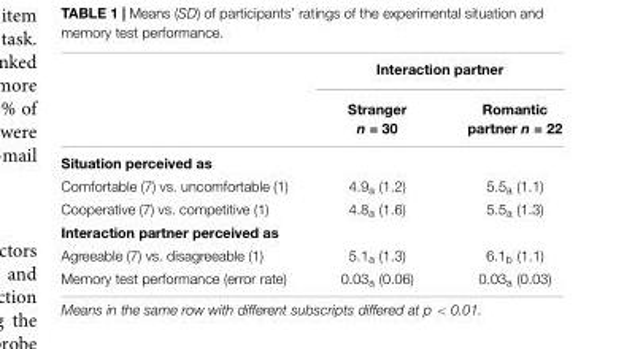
<table><thead><tr><td rowspan="2"></td><td colspan="2">Interaction partner</td></tr><tr><td>Stranger n = 30</td><td>Romantic partner n = 22</td></tr></thead><tbody><tr><td colspan="3">Situation perceived as</td></tr><tr><td>Comfortable (7) vs. uncomfortable (1)</td><td>4.9<sub>a</sub> (1.2)</td><td>5.5<sub>a</sub> (1.1)</td></tr><tr><td>Cooperative (7) vs. competitive (1)</td><td>4.8<sub>a</sub> (1.6)</td><td>5.5<sub>a</sub> (1.3)</td></tr><tr><td colspan="3">Interaction partner perceived as</td></tr><tr><td>Agreeable (7) vs. disagreeable (1)</td><td>5.1<sub>a</sub> (1.3)</td><td>6.1<sub>b</sub> (1.1)</td></tr><tr><td>Memory test performance (error rate)</td><td>0.03<sub>a</sub> (0.06)</td><td>0.03<sub>a</sub> (0.03)</td></tr></tbody></table>